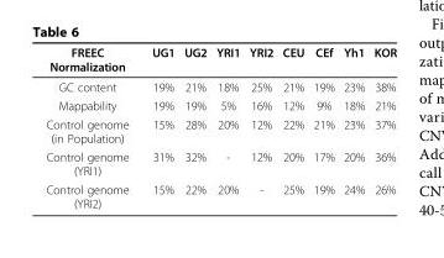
<table><thead><tr><td>FREEC Normalization</td><td>UG1</td><td>UG2</td><td>YRI1</td><td>YRI2</td><td>CEU</td><td>CEf</td><td>Yh1</td><td>KOR</td></tr></thead><tbody><tr><td>GC content</td><td>19%</td><td>21%</td><td>18%</td><td>25%</td><td>21%</td><td>19%</td><td>23%</td><td>38%</td></tr><tr><td>Mappability</td><td>19%</td><td>19%</td><td>5%</td><td>16%</td><td>12%</td><td>9%</td><td>18%</td><td>21%</td></tr><tr><td>Control genome (in Population)</td><td>15%</td><td>28%</td><td>20%</td><td>12%</td><td>22%</td><td>21%</td><td>23%</td><td>37%</td></tr><tr><td>Control genome (YRI1)</td><td>31%</td><td>32%</td><td>-</td><td>12%</td><td>20%</td><td>17%</td><td>20%</td><td>36%</td></tr><tr><td>Control genome (YRI2)</td><td>15%</td><td>22%</td><td>20%</td><td>-</td><td>25%</td><td>19%</td><td>24%</td><td>26%</td></tr></tbody></table>